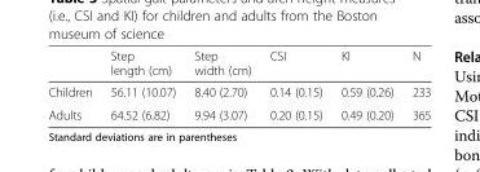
<table><thead><tr><td></td><td>Step length (cm)</td><td>Step width (cm)</td><td>CSI</td><td>KI</td><td>N</td></tr></thead><tbody><tr><td>Children</td><td>56.11 (10.07)</td><td>8.40 (2.70)</td><td>0.14 (0.15)</td><td>0.59 (0.26)</td><td>233</td></tr><tr><td>Adults</td><td>64.52 (6.82)</td><td>9.94 (3.07)</td><td>0.20 (0.15)</td><td>0.49 (0.20)</td><td>365</td></tr></tbody></table>